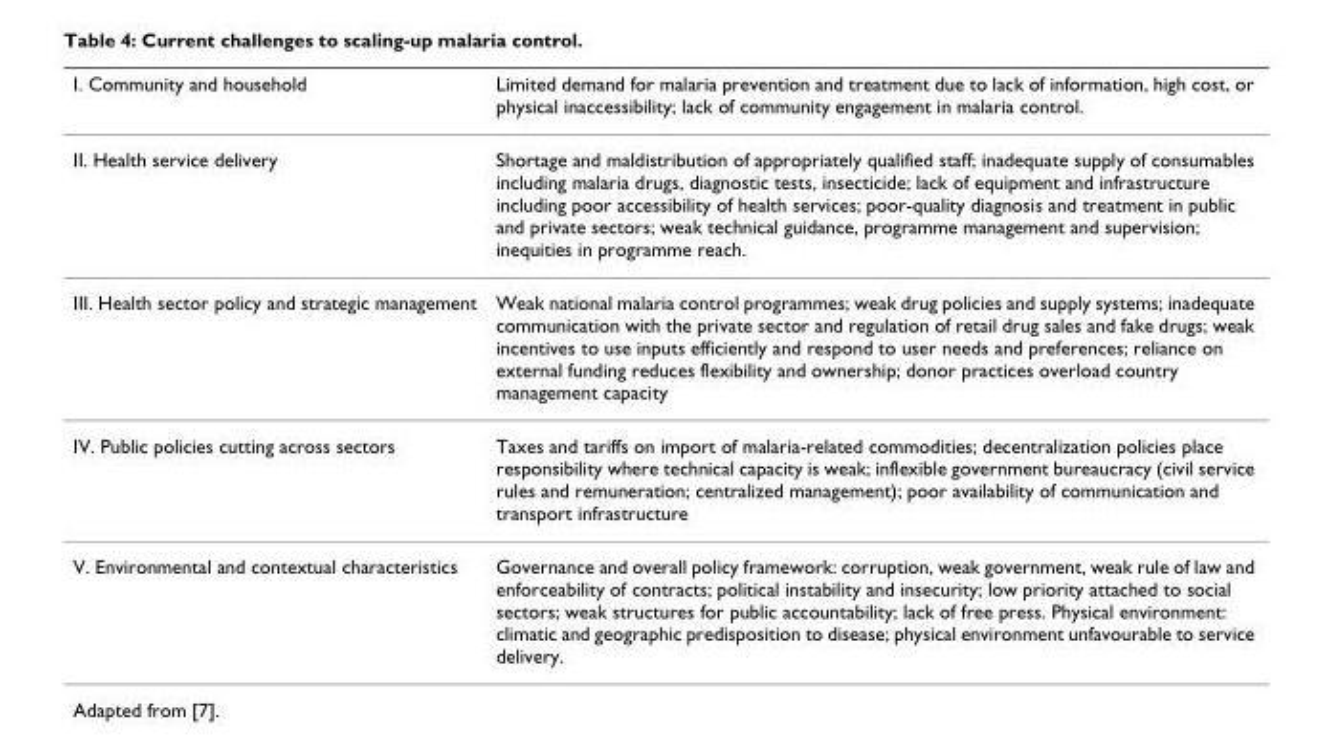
<table><thead><tr><td>I. Community and household</td><td>Limited demand for malaria prevention and treatment due to lack of information, high cost, or physical inaccessibility; lack of community engagement in malaria control.</td></tr></thead><tbody><tr><td>II. Health service delivery</td><td>Shortage and maldistribution of appropriately qualified staff; inadequate supply of consumables including malaria drugs, diagnostic tests, insecticide; lack of equipment and infrastructure including poor accessibility of health services; poor-quality diagnosis and treatment in public and private sectors; weak technical guidance, programme management and supervision; inequities in programme reach.</td></tr><tr><td>III. Health sector policy and strategic management</td><td>Weak national malaria control programmes; weak drug policies and supply systems; inadequate communication with the private sector and regulation of retail drug sales and fake drugs; weak incentives to use inputs efficiently and respond to user needs and preferences; reliance on external funding reduces flexibility and ownership; donor practices overload country management capacity</td></tr><tr><td>IV. Public policies cutting across sectors</td><td>Taxes and tariffs on import of malaria-related commodities; decentralization policies place responsibility where technical capacity is weak; inflexible government bureaucracy (civil service rules and remuneration; centralized management); poor availability of communication and transport infrastructure</td></tr><tr><td>V. Environmental and contextual characteristics</td><td>Governance and overall policy framework: corruption, weak government, weak rule of law and enforceability of contracts; political instability and insecurity; low priority attached to social sectors; weak structures for public accountability; lack of free press. Physical environment: climatic and geographic predisposition to disease; physical environment unfavourable to service delivery.</td></tr></tbody></table>